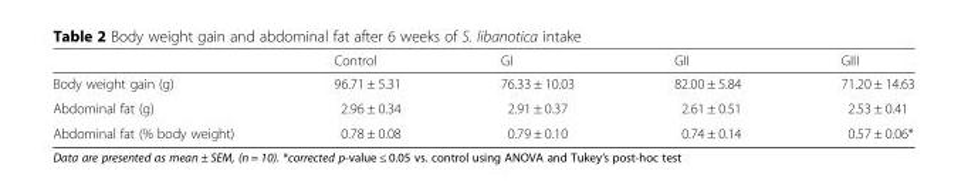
<table><thead><tr><td></td><td>Control</td><td>GI</td><td>GII</td><td>GIII</td></tr></thead><tbody><tr><td>Body weight gain (g)</td><td>96.71 ± 5.31</td><td>76.33 ± 10.03</td><td>82.00 ± 5.84</td><td>71.20 ± 14.63</td></tr><tr><td>Abdominal fat (g)</td><td>2.96 ± 0.34</td><td>2.91 ± 0.37</td><td>2.61 ± 0.51</td><td>2.53 ± 0.41</td></tr><tr><td>Abdominal fat (% body weight)</td><td>0.78 ± 0.08</td><td>0.79 ± 0.10</td><td>0.74 ± 0.14</td><td>0.57 ± 0.06*</td></tr></tbody></table>